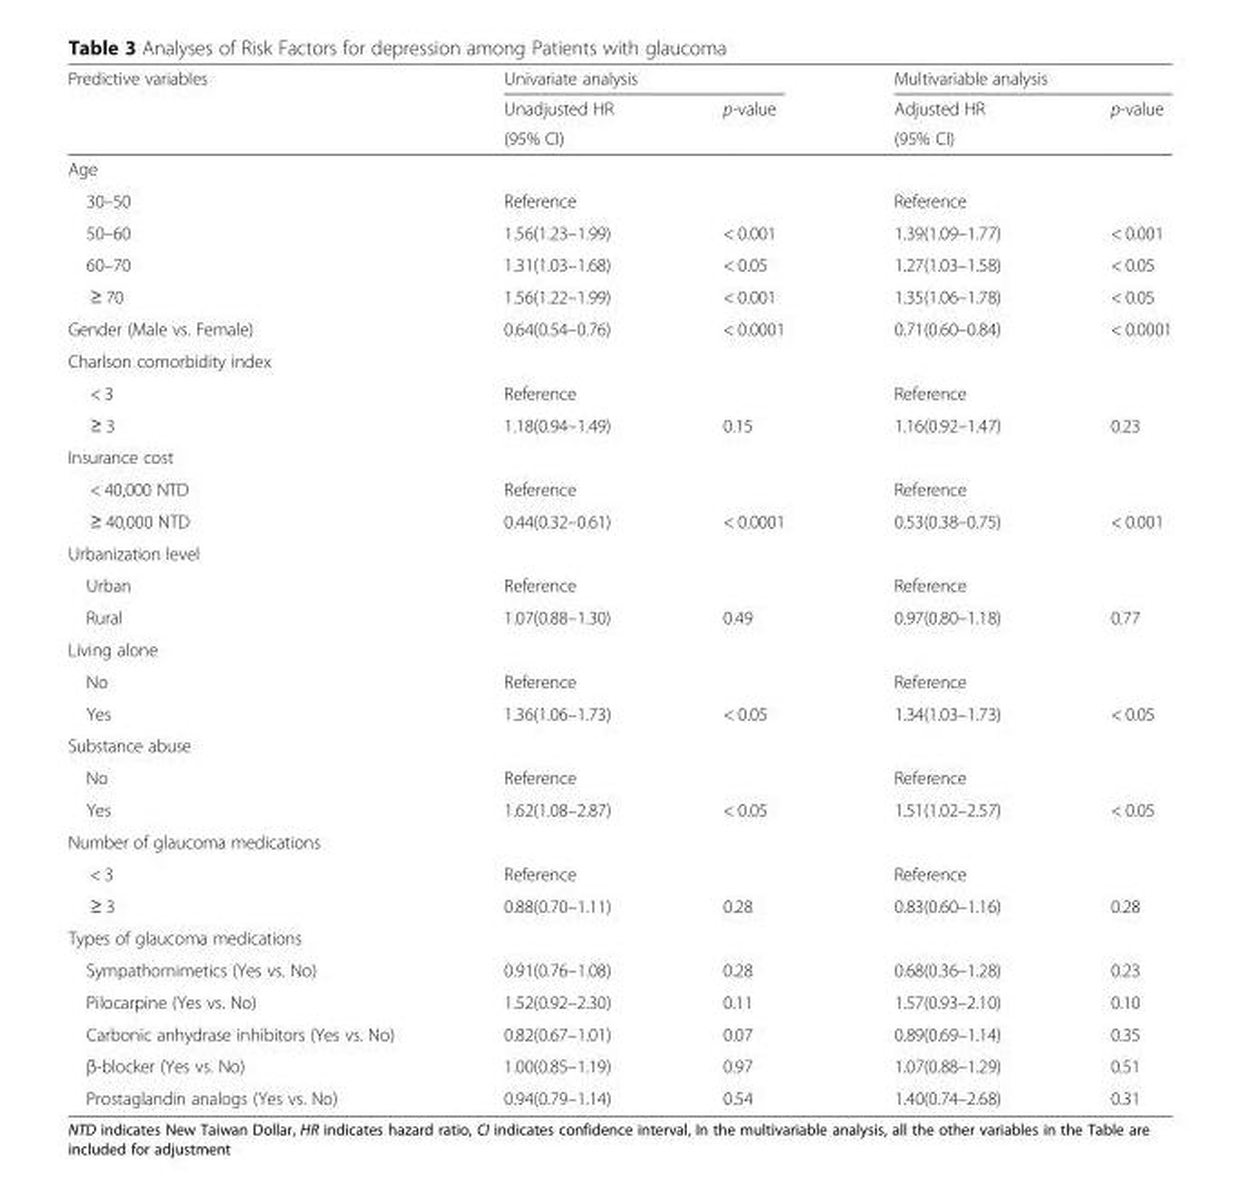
<table><thead><tr><td rowspan="3">Predictive variables</td><td colspan="2">Univariate analysis</td><td colspan="2">Multivariable analysis</td></tr><tr><td rowspan="2">Unadjusted HR (95% CI)</td><td rowspan="2">p-value</td><td rowspan="2">Adjusted HR (95% CI)</td><td rowspan="2">p-value</td></tr><tr></tr></thead><tbody><tr><td colspan="5">Age</td></tr><tr><td>30–50</td><td>Reference</td><td></td><td>Reference</td><td></td></tr><tr><td>50–60</td><td>1.56(1.23–1.99)</td><td>&lt; 0.001</td><td>1.39(1.09–1.77)</td><td>&lt; 0.001</td></tr><tr><td>60–70</td><td>1.31(1.03–1.68)</td><td>&lt; 0.05</td><td>1.27(1.03–1.58)</td><td>&lt; 0.05</td></tr><tr><td>≥ 70</td><td>1.56(1.22–1.99)</td><td>&lt; 0.001</td><td>1.35(1.06–1.78)</td><td>&lt; 0.05</td></tr><tr><td>Gender (Male vs. Female)</td><td>0.64(0.54–0.76)</td><td>&lt; 0.0001</td><td>0.71(0.60–0.84)</td><td>&lt; 0.0001</td></tr><tr><td colspan="5">Charlson comorbidity index</td></tr><tr><td>&lt; 3</td><td>Reference</td><td></td><td>Reference</td><td></td></tr><tr><td>≥ 3</td><td>1.18(0.94–1.49)</td><td>0.15</td><td>1.16(0.92–1.47)</td><td>0.23</td></tr><tr><td colspan="5">Insurance cost</td></tr><tr><td>&lt; 40,000 NTD</td><td>Reference</td><td></td><td>Reference</td><td></td></tr><tr><td>≥ 40,000 NTD</td><td>0.44(0.32–0.61)</td><td>&lt; 0.0001</td><td>0.53(0.38–0.75)</td><td>&lt; 0.001</td></tr><tr><td colspan="5">Urbanization level</td></tr><tr><td>Urban</td><td>Reference</td><td></td><td>Reference</td><td></td></tr><tr><td>Rural</td><td>1.07(0.88–1.30)</td><td>0.49</td><td>0.97(0.80–1.18)</td><td>0.77</td></tr><tr><td colspan="5">Living alone</td></tr><tr><td>No</td><td>Reference</td><td></td><td>Reference</td><td></td></tr><tr><td>Yes</td><td>1.36(1.06–1.73)</td><td>&lt; 0.05</td><td>1.34(1.03–1.73)</td><td>&lt; 0.05</td></tr><tr><td colspan="5">Substance abuse</td></tr><tr><td>No</td><td>Reference</td><td></td><td>Reference</td><td></td></tr><tr><td>Yes</td><td>1.62(1.08–2.87)</td><td>&lt; 0.05</td><td>1.51(1.02–2.57)</td><td>&lt; 0.05</td></tr><tr><td colspan="5">Number of glaucoma medications</td></tr><tr><td>&lt; 3</td><td>Reference</td><td></td><td>Reference</td><td></td></tr><tr><td>≥ 3</td><td>0.88(0.70–1.11)</td><td>0.28</td><td>0.83(0.60–1.16)</td><td>0.28</td></tr><tr><td colspan="5">Types of glaucoma medications</td></tr><tr><td>Sympathomimetics (Yes vs. No)</td><td>0.91(0.76–1.08)</td><td>0.28</td><td>0.68(0.36–1.28)</td><td>0.23</td></tr><tr><td>Pilocarpine (Yes vs. No)</td><td>1.52(0.92–2.30)</td><td>0.11</td><td>1.57(0.93–2.10)</td><td>0.10</td></tr><tr><td>Carbonic anhydrase inhibitors (Yes vs. No)</td><td>0.82(0.67–1.01)</td><td>0.07</td><td>0.89(0.69–1.14)</td><td>0.35</td></tr><tr><td>β-blocker (Yes vs. No)</td><td>1.00(0.85–1.19)</td><td>0.97</td><td>1.07(0.88–1.29)</td><td>0.51</td></tr><tr><td>Prostaglandin analogs (Yes vs. No)</td><td>0.94(0.79–1.14)</td><td>0.54</td><td>1.40(0.74–2.68)</td><td>0.31</td></tr></tbody></table>